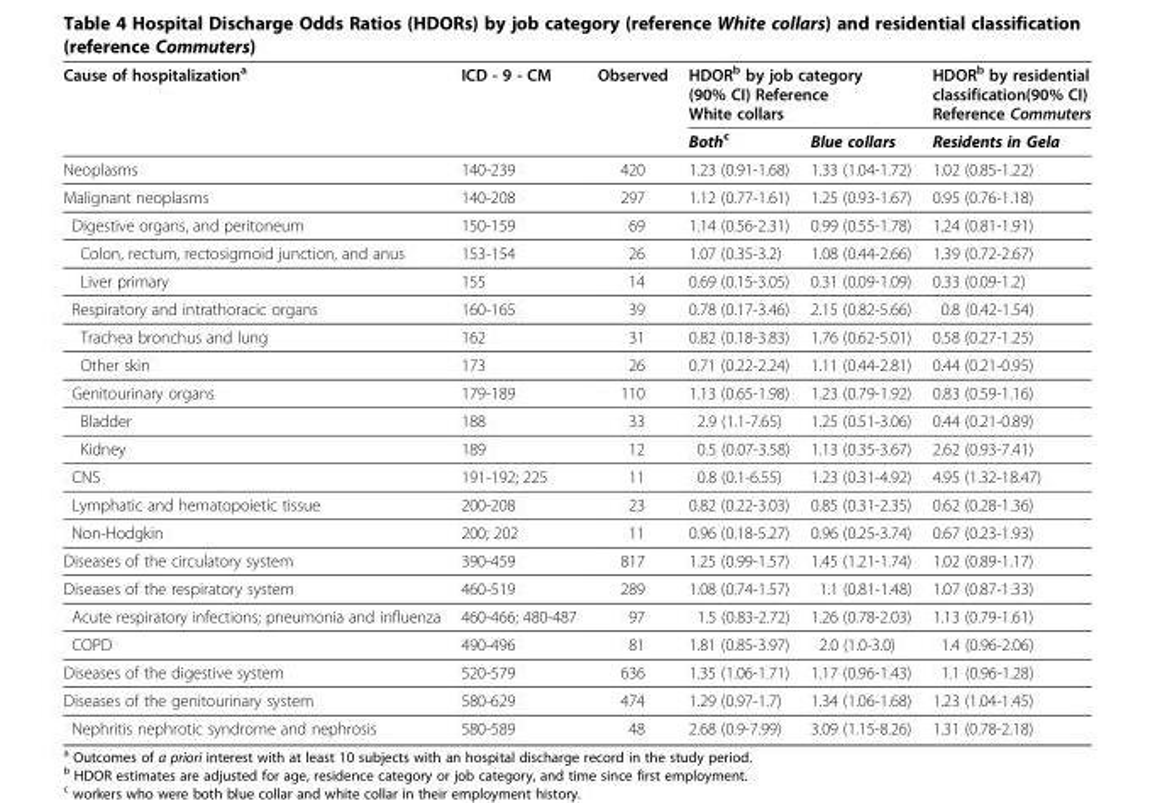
<table><thead><tr><td rowspan="2">Cause of hospitalization<sup>a</sup></td><td rowspan="2">ICD - 9 - CM</td><td rowspan="2">Observed</td><td colspan="2">HDOR<sup>b</sup> by job category (90% CI) Reference White collars</td><td rowspan="2">HDOR<sup>b</sup> by residential classification(90% CI) Reference Commuters Residents in Gela</td></tr><tr><td>Both<sup>c</sup></td><td>Blue collars</td></tr></thead><tbody><tr><td>Neoplasms</td><td>140-239</td><td>420</td><td>1.23 (0.91-1.68)</td><td>1.33 (1.04-1.72)</td><td>1.02 (0.85-1.22)</td></tr><tr><td>Malignant neoplasms</td><td>140-208</td><td>297</td><td>1.12 (0.77-1.61)</td><td>1.25 (0.93-1.67)</td><td>0.95 (0.76-1.18)</td></tr><tr><td>Digestive organs, and peritoneum</td><td>150-159</td><td>69</td><td>1.14 (0.56-2.31)</td><td>0.99 (0.55-1.78)</td><td>1.24 (0.81-1.91)</td></tr><tr><td>Colon, rectum, rectosigmoid junction, and anus</td><td>153-154</td><td>26</td><td>1.07 (0.35-3.2)</td><td>1.08 (0.44-2.66)</td><td>1.39 (0.72-2.67)</td></tr><tr><td>Liver primary</td><td>155</td><td>14</td><td>0.69 (0.15-3.05)</td><td>0.31 (0.09-1.09)</td><td>0.33 (0.09-1.2)</td></tr><tr><td>Respiratory and intrathoracic organs</td><td>160-165</td><td>39</td><td>0.78 (0.17-3.46)</td><td>2.15 (0.82-5.66)</td><td>0.8 (0.42-1.54)</td></tr><tr><td>Trachea bronchus and lung</td><td>162</td><td>31</td><td>0.82 (0.18-3.83)</td><td>1.76 (0.62-5.01)</td><td>0.58 (0.27-1.25)</td></tr><tr><td>Other skin</td><td>173</td><td>26</td><td>0.71 (0.22-2.24)</td><td>1.11 (0.44-2.81)</td><td>0.44 (0.21-0.95)</td></tr><tr><td>Genitourinary organs</td><td>179-189</td><td>110</td><td>1.13 (0.65-1.98)</td><td>1.23 (0.79-1.92)</td><td>0.83 (0.59-1.16)</td></tr><tr><td>Bladder</td><td>188</td><td>33</td><td>2.9 (1.1-7.65)</td><td>1.25 (0.51-3.06)</td><td>0.44 (0.21-0.89)</td></tr><tr><td>Kidney</td><td>189</td><td>12</td><td>0.5 (0.07-3.58)</td><td>1.13 (0.35-3.67)</td><td>2.62 (0.93-7.41)</td></tr><tr><td>CNS</td><td>191-192; 225</td><td>11</td><td>0.8 (0.1-6.55)</td><td>1.23 (0.31-4.92)</td><td>4.95 (1.32-18.47)</td></tr><tr><td>Lymphatic and hematopoietic tissue</td><td>200-208</td><td>23</td><td>0.82 (0.22-3.03)</td><td>0.85 (0.31-2.35)</td><td>0.62 (0.28-1.36)</td></tr><tr><td>Non-Hodgkin</td><td>200; 202</td><td>11</td><td>0.96 (0.18-5.27)</td><td>0.96 (0.25-3.74)</td><td>0.67 (0.23-1.93)</td></tr><tr><td>Diseases of the circulatory system</td><td>390-459</td><td>817</td><td>1.25 (0.99-1.57)</td><td>1.45 (1.21-1.74)</td><td>1.02 (0.89-1.17)</td></tr><tr><td>Diseases of the respiratory system</td><td>460-519</td><td>289</td><td>1.08 (0.74-1.57)</td><td>1.1 (0.81-1.48)</td><td>1.07 (0.87-1.33)</td></tr><tr><td>Acute respiratory infections; pneumonia and influenza</td><td>460-466; 480-487</td><td>97</td><td>1.5 (0.83-2.72)</td><td>1.26 (0.78-2.03)</td><td>1.13 (0.79-1.61)</td></tr><tr><td>COPD</td><td>490-496</td><td>81</td><td>1.81 (0.85-3.97)</td><td>2.0 (1.0-3.0)</td><td>1.4 (0.96-2.06)</td></tr><tr><td>Diseases of the digestive system</td><td>520-579</td><td>636</td><td>1.35 (1.06-1.71)</td><td>1.17 (0.96-1.43)</td><td>1.1 (0.96-1.28)</td></tr><tr><td>Diseases of the genitourinary system</td><td>580-629</td><td>474</td><td>1.29 (0.97-1.7)</td><td>1.34 (1.06-1.68)</td><td>1.23 (1.04-1.45)</td></tr><tr><td>Nephritis nephrotic syndrome and nephrosis</td><td>580-589</td><td>48</td><td>2.68 (0.9-7.99)</td><td>3.09 (1.15-8.26)</td><td>1.31 (0.78-2.18)</td></tr></tbody></table>